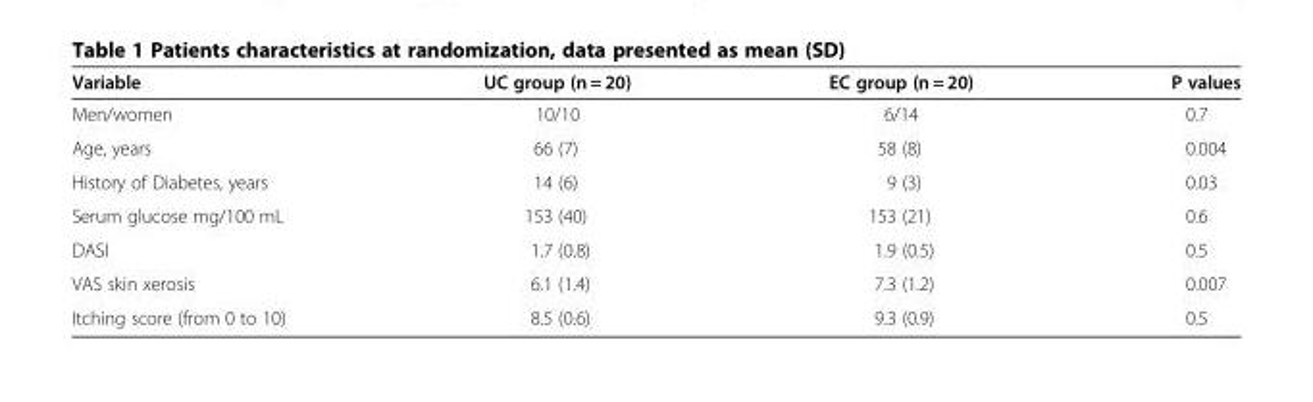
<table><thead><tr><td>Variable</td><td>UC group (n = 20)</td><td>EC group (n = 20)</td><td>P values</td></tr></thead><tbody><tr><td>Men/women</td><td>10/10</td><td>6/14</td><td>0.7</td></tr><tr><td>Age, years</td><td>66 (7)</td><td>58 (8)</td><td>0.004</td></tr><tr><td>History of Diabetes, years</td><td>14 (6)</td><td>9 (3)</td><td>0.03</td></tr><tr><td>Serum glucose mg/100 mL</td><td>153 (40)</td><td>153 (21)</td><td>0.6</td></tr><tr><td>DASI</td><td>1.7 (0.8)</td><td>1.9 (0.5)</td><td>0.5</td></tr><tr><td>VAS skin xerosis</td><td>6.1 (1.4)</td><td>7.3 (1.2)</td><td>0.007</td></tr><tr><td>Itching score (from 0 to 10)</td><td>8.5 (0.6)</td><td>9.3 (0.9)</td><td>0.5</td></tr></tbody></table>